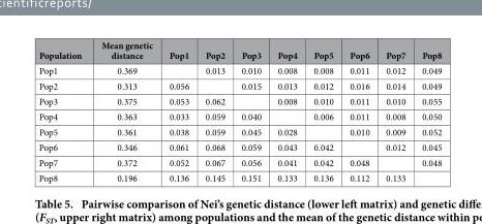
<table><thead><tr><td>Population</td><td>Mean genetic distance</td><td>Pop1</td><td>Pop2</td><td>Pop3</td><td>Pop4</td><td>Pop5</td><td>Pop6</td><td>Pop7</td><td>Pop8</td></tr></thead><tbody><tr><td>Pop1</td><td>0.369</td><td></td><td>0.013</td><td>0.010</td><td>0.008</td><td>0.008</td><td>0.011</td><td>0.012</td><td>0.049</td></tr><tr><td>Pop2</td><td>0.313</td><td>0.056</td><td></td><td>0.015</td><td>0.013</td><td>0.012</td><td>0.016</td><td>0.014</td><td>0.049</td></tr><tr><td>Pop3</td><td>0.375</td><td>0.053</td><td>0.062</td><td></td><td>0.008</td><td>0.010</td><td>0.011</td><td>0.010</td><td>0.055</td></tr><tr><td>Pop4</td><td>0.363</td><td>0.033</td><td>0.059</td><td>0.040</td><td></td><td>0.006</td><td>0.011</td><td>0.008</td><td>0.050</td></tr><tr><td>Pop5</td><td>0.361</td><td>0.038</td><td>0.059</td><td>0.045</td><td>0.028</td><td></td><td>0.010</td><td>0.009</td><td>0.052</td></tr><tr><td>Pop6</td><td>0.346</td><td>0.061</td><td>0.068</td><td>0.059</td><td>0.043</td><td>0.042</td><td></td><td>0.012</td><td>0.045</td></tr><tr><td>Pop7</td><td>0.372</td><td>0.052</td><td>0.067</td><td>0.056</td><td>0.041</td><td>0.042</td><td>0.048</td><td></td><td>0.048</td></tr><tr><td>Pop8</td><td>0.196</td><td>0.136</td><td>0.145</td><td>0.151</td><td>0.133</td><td>0.136</td><td>0.112</td><td>0.133</td><td></td></tr></tbody></table>